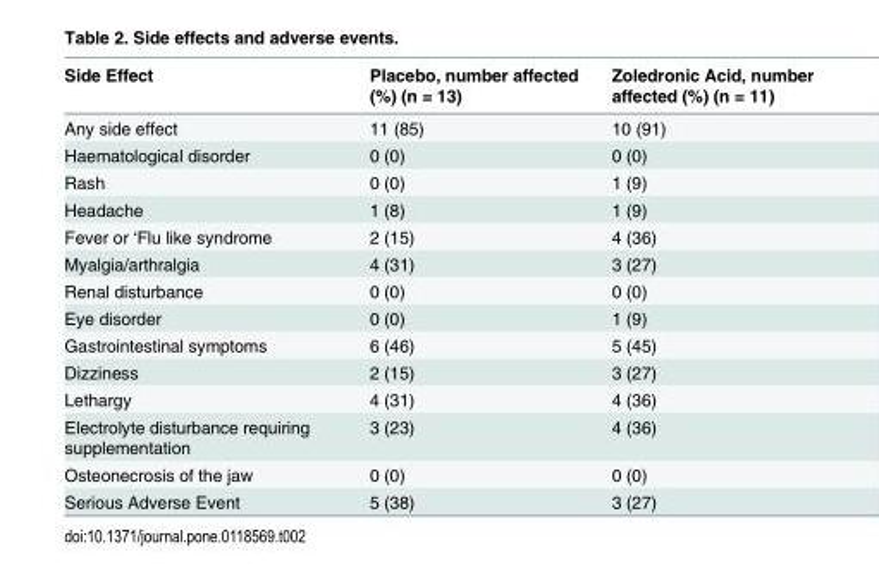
<table><thead><tr><td>Side Effect</td><td>Placebo, number affected (%) (n = 13)</td><td>Zoledronic Acid, number affected (%) (n = 11)</td></tr></thead><tbody><tr><td>Any side effect</td><td>11 (85)</td><td>10 (91)</td></tr><tr><td>Haematological disorder</td><td>0 (0)</td><td>0 (0)</td></tr><tr><td>Rash</td><td>0 (0)</td><td>1 (9)</td></tr><tr><td>Headache</td><td>1 (8)</td><td>1 (9)</td></tr><tr><td>Fever or ‘Flu like syndrome</td><td>2 (15)</td><td>4 (36)</td></tr><tr><td>Myalgia/arthralgia</td><td>4 (31)</td><td>3 (27)</td></tr><tr><td>Renal disturbance</td><td>0 (0)</td><td>0 (0)</td></tr><tr><td>Eye disorder</td><td>0 (0)</td><td>1 (9)</td></tr><tr><td>Gastrointestinal symptoms</td><td>6 (46)</td><td>5 (45)</td></tr><tr><td>Dizziness</td><td>2 (15)</td><td>3 (27)</td></tr><tr><td>Lethargy</td><td>4 (31)</td><td>4 (36)</td></tr><tr><td>Electrolyte disturbance requiring supplementation</td><td>3 (23)</td><td>4 (36)</td></tr><tr><td>Osteonecrosis of the jaw</td><td>0 (0)</td><td>0 (0)</td></tr><tr><td>Serious Adverse Event</td><td>5 (38)</td><td>3 (27)</td></tr></tbody></table>